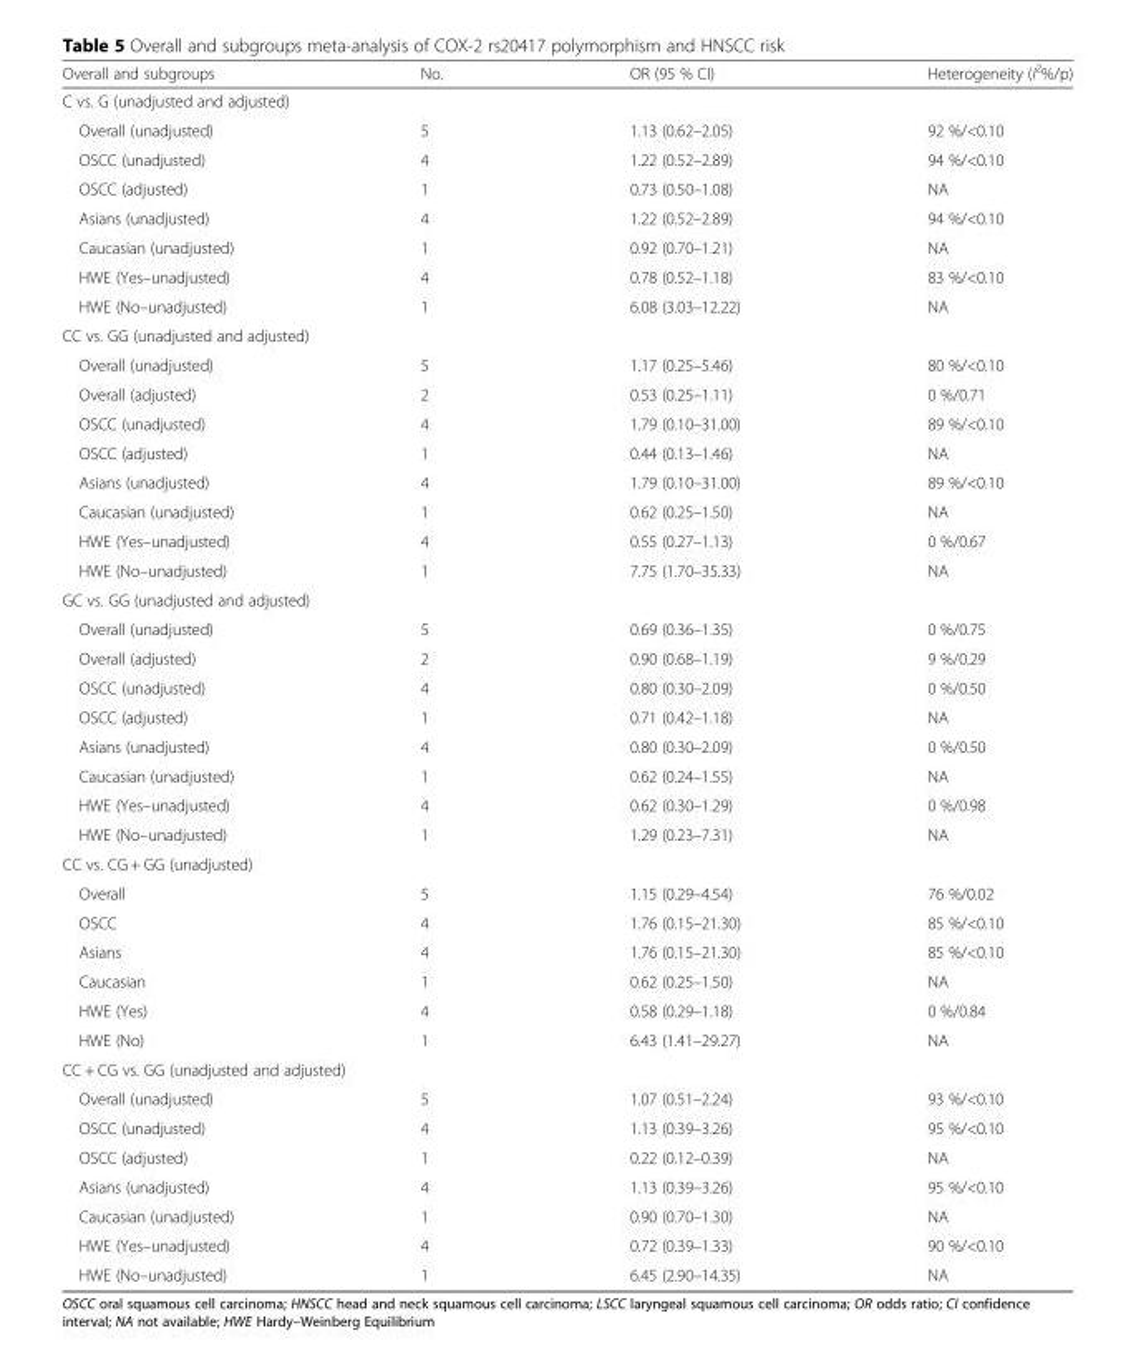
<table><thead><tr><td>Overall and subgroups</td><td>No.</td><td>OR (95 % CI)</td><td>Heterogeneity (I<sup>2</sup>%/p)</td></tr></thead><tbody><tr><td colspan="4">C vs. G (unadjusted and adjusted)</td></tr><tr><td>Overall (unadjusted)</td><td>5</td><td>1.13 (0.62–2.05)</td><td>92 %/&lt;0.10</td></tr><tr><td>OSCC (unadjusted)</td><td>4</td><td>1.22 (0.52–2.89)</td><td>94 %/&lt;0.10</td></tr><tr><td>OSCC (adjusted)</td><td>1</td><td>0.73 (0.50–1.08)</td><td>NA</td></tr><tr><td>Asians (unadjusted)</td><td>4</td><td>1.22 (0.52–2.89)</td><td>94 %/&lt;0.10</td></tr><tr><td>Caucasian (unadjusted)</td><td>1</td><td>0.92 (0.70–1.21)</td><td>NA</td></tr><tr><td>HWE (Yes–unadjusted)</td><td>4</td><td>0.78 (0.52–1.18)</td><td>83 %/&lt;0.10</td></tr><tr><td>HWE (No–unadjusted)</td><td>1</td><td>6.08 (3.03–12.22)</td><td>NA</td></tr><tr><td colspan="4">CC vs. GG (unadjusted and adjusted)</td></tr><tr><td>Overall (unadjusted)</td><td>5</td><td>1.17 (0.25–5.46)</td><td>80 %/&lt;0.10</td></tr><tr><td>Overall (adjusted)</td><td>2</td><td>0.53 (0.25–1.11)</td><td>0 %/0.71</td></tr><tr><td>OSCC (unadjusted)</td><td>4</td><td>1.79 (0.10–31.00)</td><td>89 %/&lt;0.10</td></tr><tr><td>OSCC (adjusted)</td><td>1</td><td>0.44 (0.13–1.46)</td><td>NA</td></tr><tr><td>Asians (unadjusted)</td><td>4</td><td>1.79 (0.10–31.00)</td><td>89 %/&lt;0.10</td></tr><tr><td>Caucasian (unadjusted)</td><td>1</td><td>0.62 (0.25–1.50)</td><td>NA</td></tr><tr><td>HWE (Yes–unadjusted)</td><td>4</td><td>0.55 (0.27–1.13)</td><td>0 %/0.67</td></tr><tr><td>HWE (No–unadjusted)</td><td>1</td><td>7.75 (1.70–35.33)</td><td>NA</td></tr><tr><td colspan="4">GC vs. GG (unadjusted and adjusted)</td></tr><tr><td>Overall (unadjusted)</td><td>5</td><td>0.69 (0.36–1.35)</td><td>0 %/0.75</td></tr><tr><td>Overall (adjusted)</td><td>2</td><td>0.90 (0.68–1.19)</td><td>9 %/0.29</td></tr><tr><td>OSCC (unadjusted)</td><td>4</td><td>0.80 (0.30–2.09)</td><td>0 %/0.50</td></tr><tr><td>OSCC (adjusted)</td><td>1</td><td>0.71 (0.42–1.18)</td><td>NA</td></tr><tr><td>Asians (unadjusted)</td><td>4</td><td>0.80 (0.30–2.09)</td><td>0 %/0.50</td></tr><tr><td>Caucasian (unadjusted)</td><td>1</td><td>0.62 (0.24–1.55)</td><td>NA</td></tr><tr><td>HWE (Yes–unadjusted)</td><td>4</td><td>0.62 (0.30–1.29)</td><td>0 %/0.98</td></tr><tr><td>HWE (No–unadjusted)</td><td>1</td><td>1.29 (0.23–7.31)</td><td>NA</td></tr><tr><td colspan="4">CC vs. CG + GG (unadjusted)</td></tr><tr><td>Overall</td><td>5</td><td>1.15 (0.29–4.54)</td><td>76 %/0.02</td></tr><tr><td>OSCC</td><td>4</td><td>1.76 (0.15–21.30)</td><td>85 %/&lt;0.10</td></tr><tr><td>Asians</td><td>4</td><td>1.76 (0.15–21.30)</td><td>85 %/&lt;0.10</td></tr><tr><td>Caucasian</td><td>1</td><td>0.62 (0.25–1.50)</td><td>NA</td></tr><tr><td>HWE (Yes)</td><td>4</td><td>0.58 (0.29–1.18)</td><td>0 %/0.84</td></tr><tr><td>HWE (No)</td><td>1</td><td>6.43 (1.41–29.27)</td><td>NA</td></tr><tr><td colspan="4">CC + CG vs. GG (unadjusted and adjusted)</td></tr><tr><td>Overall (unadjusted)</td><td>5</td><td>1.07 (0.51–2.24)</td><td>93 %/&lt;0.10</td></tr><tr><td>OSCC (unadjusted)</td><td>4</td><td>1.13 (0.39–3.26)</td><td>95 %/&lt;0.10</td></tr><tr><td>OSCC (adjusted)</td><td>1</td><td>0.22 (0.12–0.39)</td><td>NA</td></tr><tr><td>Asians (unadjusted)</td><td>4</td><td>1.13 (0.39–3.26)</td><td>95 %/&lt;0.10</td></tr><tr><td>Caucasian (unadjusted)</td><td>1</td><td>0.90 (0.70–1.30)</td><td>NA</td></tr><tr><td>HWE (Yes–unadjusted)</td><td>4</td><td>0.72 (0.39–1.33)</td><td>90 %/&lt;0.10</td></tr><tr><td>HWE (No–unadjusted)</td><td>1</td><td>6.45 (2.90–14.35)</td><td>NA</td></tr></tbody></table>